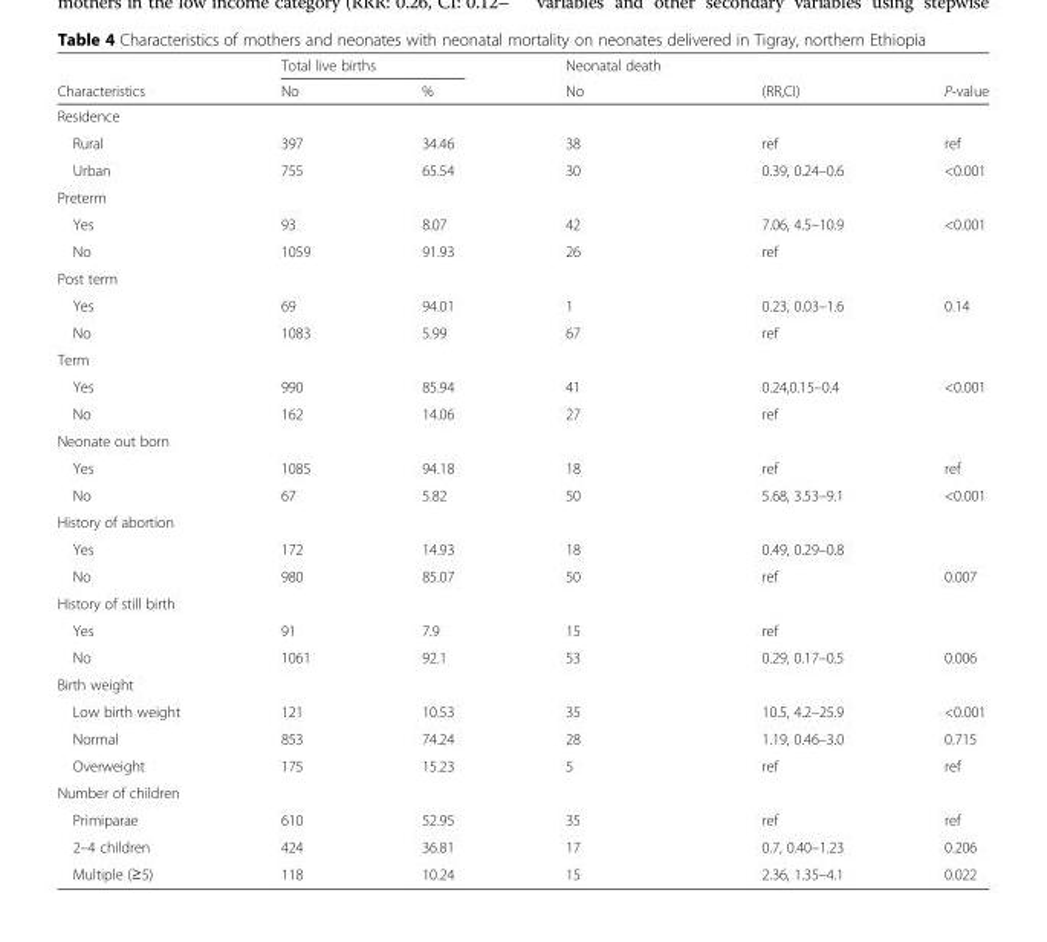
<table><thead><tr><td rowspan="2">Characteristics</td><td colspan="2">Total live births</td><td rowspan="2">Neonatal death No</td><td rowspan="2">(RR,CI)</td><td rowspan="2">P-value</td></tr><tr><td>No</td><td>%</td></tr></thead><tbody><tr><td colspan="6">Residence</td></tr><tr><td>Rural</td><td>397</td><td>34.46</td><td>38</td><td>ref</td><td>ref</td></tr><tr><td>Urban</td><td>755</td><td>65.54</td><td>30</td><td>0.39, 0.24–0.6</td><td>&lt;0.001</td></tr><tr><td colspan="6">Preterm</td></tr><tr><td>Yes</td><td>93</td><td>8.07</td><td>42</td><td>7.06, 4.5–10.9</td><td>&lt;0.001</td></tr><tr><td>No</td><td>1059</td><td>91.93</td><td>26</td><td>ref</td><td></td></tr><tr><td colspan="6">Post term</td></tr><tr><td>Yes</td><td>69</td><td>94.01</td><td>1</td><td>0.23, 0.03–1.6</td><td>0.14</td></tr><tr><td>No</td><td>1083</td><td>5.99</td><td>67</td><td>ref</td><td></td></tr><tr><td colspan="6">Term</td></tr><tr><td>Yes</td><td>990</td><td>85.94</td><td>41</td><td>0.24,0.15–0.4</td><td>&lt;0.001</td></tr><tr><td>No</td><td>162</td><td>14.06</td><td>27</td><td>ref</td><td></td></tr><tr><td colspan="6">Neonate out born</td></tr><tr><td>Yes</td><td>1085</td><td>94.18</td><td>18</td><td>ref</td><td>ref</td></tr><tr><td>No</td><td>67</td><td>5.82</td><td>50</td><td>5.68, 3.53–9.1</td><td>&lt;0.001</td></tr><tr><td colspan="6">History of abortion</td></tr><tr><td>Yes</td><td>172</td><td>14.93</td><td>18</td><td>0.49, 0.29–0.8</td><td></td></tr><tr><td>No</td><td>980</td><td>85.07</td><td>50</td><td>ref</td><td>0.007</td></tr><tr><td colspan="6">History of still birth</td></tr><tr><td>Yes</td><td>91</td><td>7.9</td><td>15</td><td>ref</td><td></td></tr><tr><td>No</td><td>1061</td><td>92.1</td><td>53</td><td>0.29, 0.17–0.5</td><td>0.006</td></tr><tr><td colspan="6">Birth weight</td></tr><tr><td>Low birth weight</td><td>121</td><td>10.53</td><td>35</td><td>10.5, 4.2–25.9</td><td>&lt;0.001</td></tr><tr><td>Normal</td><td>853</td><td>74.24</td><td>28</td><td>1.19, 0.46–3.0</td><td>0.715</td></tr><tr><td>Overweight</td><td>175</td><td>15.23</td><td>5</td><td>ref</td><td>ref</td></tr><tr><td colspan="6">Number of children</td></tr><tr><td>Primiparae</td><td>610</td><td>52.95</td><td>35</td><td>ref</td><td>ref</td></tr><tr><td>2–4 children</td><td>424</td><td>36.81</td><td>17</td><td>0.7, 0.40–1.23</td><td>0.206</td></tr><tr><td>Multiple (≥5)</td><td>118</td><td>10.24</td><td>15</td><td>2.36, 1.35–4.1</td><td>0.022</td></tr></tbody></table>